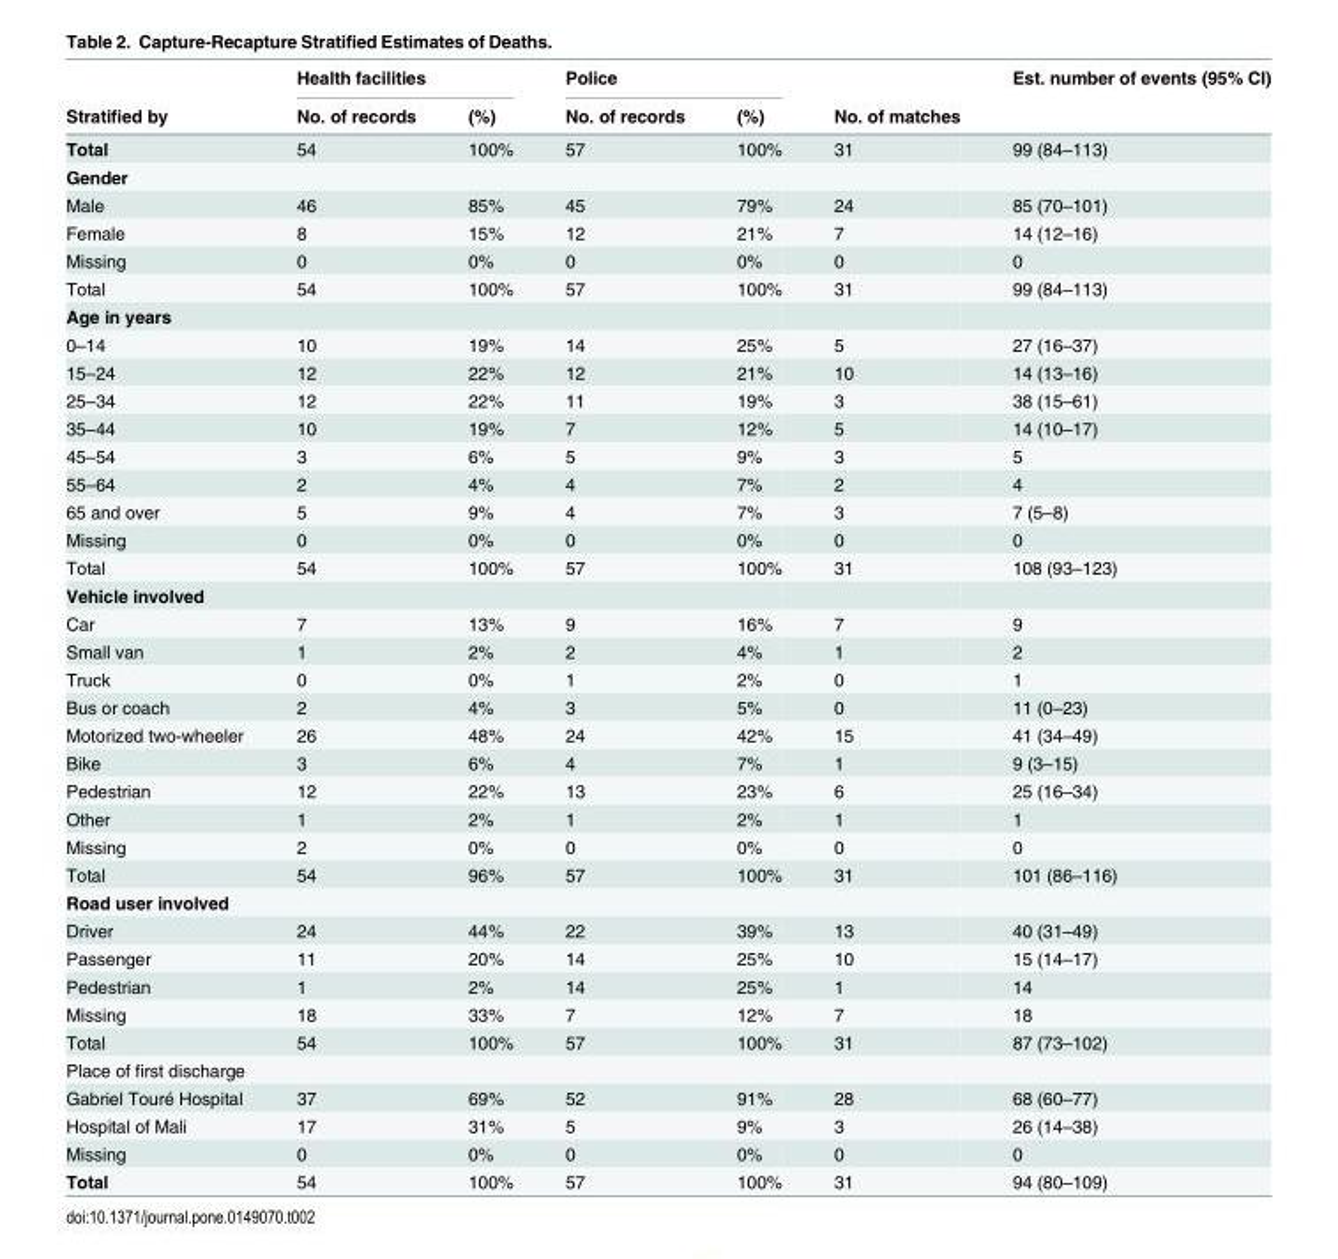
<table><thead><tr><td rowspan="2">Stratified by</td><td colspan="2">Health facilities</td><td colspan="2">Police</td><td rowspan="2">No. of matches</td><td rowspan="2">Est. number of events (95% CI)</td></tr><tr><td>No. of records</td><td>(%)</td><td>No. of records</td><td>(%)</td></tr></thead><tbody><tr><td>Total</td><td>54</td><td>100%</td><td>57</td><td>100%</td><td>31</td><td>99 (84–113)</td></tr><tr><td colspan="7">Gender</td></tr><tr><td>Male</td><td>46</td><td>85%</td><td>45</td><td>79%</td><td>24</td><td>85 (70–101)</td></tr><tr><td>Female</td><td>8</td><td>15%</td><td>12</td><td>21%</td><td>7</td><td>14 (12–16)</td></tr><tr><td>Missing</td><td>0</td><td>0%</td><td>0</td><td>0%</td><td>0</td><td>0</td></tr><tr><td>Total</td><td>54</td><td>100%</td><td>57</td><td>100%</td><td>31</td><td>99 (84–113)</td></tr><tr><td colspan="7">Age in years</td></tr><tr><td>0–14</td><td>10</td><td>19%</td><td>14</td><td>25%</td><td>5</td><td>27 (16–37)</td></tr><tr><td>15–24</td><td>12</td><td>22%</td><td>12</td><td>21%</td><td>10</td><td>14 (13–16)</td></tr><tr><td>25–34</td><td>12</td><td>22%</td><td>11</td><td>19%</td><td>3</td><td>38 (15–61)</td></tr><tr><td>35–44</td><td>10</td><td>19%</td><td>7</td><td>12%</td><td>5</td><td>14 (10–17)</td></tr><tr><td>45–54</td><td>3</td><td>6%</td><td>5</td><td>9%</td><td>3</td><td>5</td></tr><tr><td>55–64</td><td>2</td><td>4%</td><td>4</td><td>7%</td><td>2</td><td>4</td></tr><tr><td>65 and over</td><td>5</td><td>9%</td><td>4</td><td>7%</td><td>3</td><td>7 (5–8)</td></tr><tr><td>Missing</td><td>0</td><td>0%</td><td>0</td><td>0%</td><td>0</td><td>0</td></tr><tr><td>Total</td><td>54</td><td>100%</td><td>57</td><td>100%</td><td>31</td><td>108 (93–123)</td></tr><tr><td colspan="7">Vehicle involved</td></tr><tr><td>Car</td><td>7</td><td>13%</td><td>9</td><td>16%</td><td>7</td><td>9</td></tr><tr><td>Small van</td><td>1</td><td>2%</td><td>2</td><td>4%</td><td>1</td><td>2</td></tr><tr><td>Truck</td><td>0</td><td>0%</td><td>1</td><td>2%</td><td>0</td><td>1</td></tr><tr><td>Bus or coach</td><td>2</td><td>4%</td><td>3</td><td>5%</td><td>0</td><td>11 (0–23)</td></tr><tr><td>Motorized two-wheeler</td><td>26</td><td>48%</td><td>24</td><td>42%</td><td>15</td><td>41 (34–49)</td></tr><tr><td>Bike</td><td>3</td><td>6%</td><td>4</td><td>7%</td><td>1</td><td>9 (3–15)</td></tr><tr><td>Pedestrian</td><td>12</td><td>22%</td><td>13</td><td>23%</td><td>6</td><td>25 (16–34)</td></tr><tr><td>Other</td><td>1</td><td>2%</td><td>1</td><td>2%</td><td>1</td><td>1</td></tr><tr><td>Missing</td><td>2</td><td>0%</td><td>0</td><td>0%</td><td>0</td><td>0</td></tr><tr><td>Total</td><td>54</td><td>96%</td><td>57</td><td>100%</td><td>31</td><td>101 (86–116)</td></tr><tr><td colspan="7">Road user involved</td></tr><tr><td>Driver</td><td>24</td><td>44%</td><td>22</td><td>39%</td><td>13</td><td>40 (31–49)</td></tr><tr><td>Passenger</td><td>11</td><td>20%</td><td>14</td><td>25%</td><td>10</td><td>15 (14–17)</td></tr><tr><td>Pedestrian</td><td>1</td><td>2%</td><td>14</td><td>25%</td><td>1</td><td>14</td></tr><tr><td>Missing</td><td>18</td><td>33%</td><td>7</td><td>12%</td><td>7</td><td>18</td></tr><tr><td>Total</td><td>54</td><td>100%</td><td>57</td><td>100%</td><td>31</td><td>87 (73–102)</td></tr><tr><td colspan="7">Place of first discharge</td></tr><tr><td>Gabriel Touré Hospital</td><td>37</td><td>69%</td><td>52</td><td>91%</td><td>28</td><td>68 (60–77)</td></tr><tr><td>Hospital of Mali</td><td>17</td><td>31%</td><td>5</td><td>9%</td><td>3</td><td>26 (14–38)</td></tr><tr><td>Missing</td><td>0</td><td>0%</td><td>0</td><td>0%</td><td>0</td><td>0</td></tr><tr><td>Total</td><td>54</td><td>100%</td><td>57</td><td>100%</td><td>31</td><td>94 (80–109)</td></tr></tbody></table>